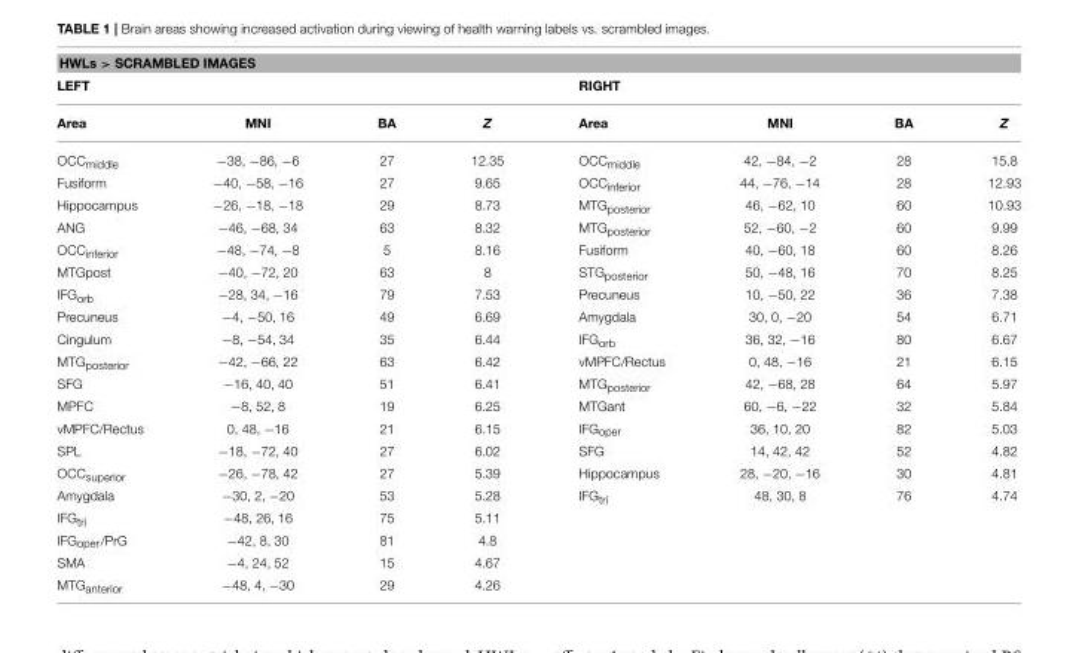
<table><thead><tr><td colspan="8">HWLs &gt; SCRAMBLED IMAGES</td></tr><tr><td>LEFT</td><td></td><td></td><td></td><td>RIGHT</td><td></td><td></td><td></td></tr></thead><tbody><tr><td>Area</td><td>MNI</td><td>BA</td><td>Z</td><td>Area</td><td>MNI</td><td>BA</td><td>Z</td></tr><tr><td>OCC<sub>middle</sub></td><td>−38, −86, −6</td><td>27</td><td>12.35</td><td>OCC<sub>middle</sub></td><td>42, −84, −2</td><td>28</td><td>15.8</td></tr><tr><td>Fusiform</td><td>−40, −58, −16</td><td>27</td><td>9.65</td><td>OCC<sub>inferior</sub></td><td>44, −76, −14</td><td>28</td><td>12.93</td></tr><tr><td>Hippocampus</td><td>−26, −18, −18</td><td>29</td><td>8.73</td><td>MTG<sub>posterior</sub></td><td>46, −62, 10</td><td>60</td><td>10.93</td></tr><tr><td>ANG</td><td>−46, −68, 34</td><td>63</td><td>8.32</td><td>MTG<sub>posterior</sub></td><td>52, −60, −2</td><td>60</td><td>9.99</td></tr><tr><td>OCC<sub>inferior</sub></td><td>−48, −74, −8</td><td>5</td><td>8.16</td><td>Fusiform</td><td>40, −60, 18</td><td>60</td><td>8.26</td></tr><tr><td>MTGpost</td><td>−40, −72, 20</td><td>63</td><td>8</td><td>STG<sub>posterior</sub></td><td>50, −48, 16</td><td>70</td><td>8.25</td></tr><tr><td>IFG<sub>orb</sub></td><td>−28, 34, −16</td><td>79</td><td>7.53</td><td>Precuneus</td><td>10, −50, 22</td><td>36</td><td>7.38</td></tr><tr><td>Precuneus</td><td>−4, −50, 16</td><td>49</td><td>6.69</td><td>Amygdala</td><td>30, 0, −20</td><td>54</td><td>6.71</td></tr><tr><td>Cingulum</td><td>−8, −54, 34</td><td>35</td><td>6.44</td><td>IFG<sub>orb</sub></td><td>36, 32, −16</td><td>80</td><td>6.67</td></tr><tr><td>MTG<sub>posterior</sub></td><td>−42, −66, 22</td><td>63</td><td>6.42</td><td>vMPFC/Rectus</td><td>0, 48, −16</td><td>21</td><td>6.15</td></tr><tr><td>SFG</td><td>−16, 40, 40</td><td>51</td><td>6.41</td><td>MTG<sub>posterior</sub></td><td>42, −68, 28</td><td>64</td><td>5.97</td></tr><tr><td>MPFC</td><td>−8, 52, 8</td><td>19</td><td>6.25</td><td>MTGant</td><td>60, −6, −22</td><td>32</td><td>5.84</td></tr><tr><td>vMPFC/Rectus</td><td>0, 48, −16</td><td>21</td><td>6.15</td><td>IFG<sub>oper</sub></td><td>36, 10, 20</td><td>82</td><td>5.03</td></tr><tr><td>SPL</td><td>−18, −72, 40</td><td>27</td><td>6.02</td><td>SFG</td><td>14, 42, 42</td><td>52</td><td>4.82</td></tr><tr><td>OCC<sub>superior</sub></td><td>−26, −78, 42</td><td>27</td><td>5.39</td><td>Hippocampus</td><td>28, −20, −16</td><td>30</td><td>4.81</td></tr><tr><td>Amygdala</td><td>−30, 2, −20</td><td>53</td><td>5.28</td><td>IFG<sub>tri</sub></td><td>48, 30, 8</td><td>76</td><td>4.74</td></tr><tr><td>IFG<sub>tri</sub></td><td>−48, 26, 16</td><td>75</td><td>5.11</td><td></td><td></td><td></td><td></td></tr><tr><td>IFG<sub>oper</sub>/PrG</td><td>−42, 8, 30</td><td>81</td><td>4.8</td><td></td><td></td><td></td><td></td></tr><tr><td>SMA</td><td>−4, 24, 52</td><td>15</td><td>4.67</td><td></td><td></td><td></td><td></td></tr><tr><td>MTG<sub>anterior</sub></td><td>−48, 4, −30</td><td>29</td><td>4.26</td><td></td><td></td><td></td><td></td></tr></tbody></table>